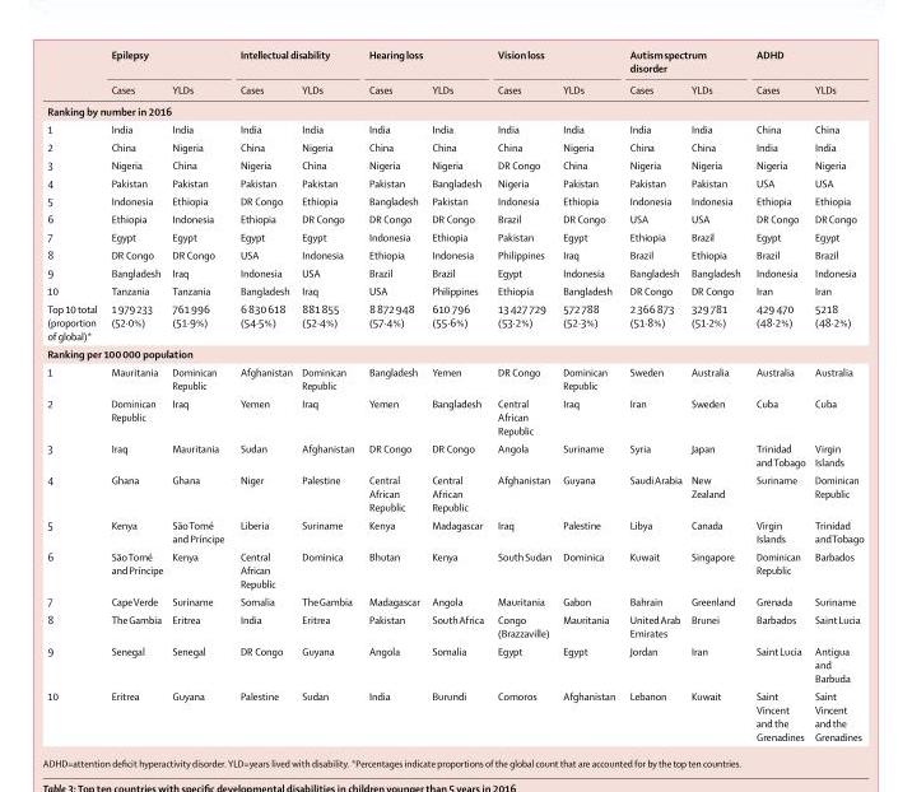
<table><thead><tr><td rowspan="2"></td><td colspan="2">Epilepsy</td><td colspan="2">Intellectual disability</td><td colspan="2">Hearing loss</td><td colspan="2">Vision loss</td><td colspan="2">Autism spectrum disorder</td><td colspan="2">ADHD</td></tr><tr><td>Cases</td><td>YLDs</td><td>Cases</td><td>YLDs</td><td>Cases</td><td>YLDs</td><td>Cases</td><td>YLDs</td><td>Cases</td><td>YLDs</td><td>Cases</td><td>YLDs</td></tr></thead><tbody><tr><td colspan="13">Ranking by number in 2016</td></tr><tr><td>1</td><td>India</td><td>India</td><td>India</td><td>India</td><td>India</td><td>India</td><td>India</td><td>India</td><td>India</td><td>India</td><td>China</td><td>China</td></tr><tr><td>2</td><td>China</td><td>Nigeria</td><td>China</td><td>Nigeria</td><td>China</td><td>China</td><td>China</td><td>Nigeria</td><td>China</td><td>China</td><td>India</td><td>India</td></tr><tr><td>3</td><td>Nigeria</td><td>China</td><td>Nigeria</td><td>China</td><td>Nigeria</td><td>Nigeria</td><td>DR Congo</td><td>China</td><td>Nigeria</td><td>Nigeria</td><td>Nigeria</td><td>Nigeria</td></tr><tr><td>4</td><td>Pakistan</td><td>Pakistan</td><td>Pakistan</td><td>Pakistan</td><td>Pakistan</td><td>Bangladesh</td><td>Nigeria</td><td>Pakistan</td><td>Pakistan</td><td>Pakistan</td><td>USA</td><td>USA</td></tr><tr><td>5</td><td>Indonesia</td><td>Ethiopia</td><td>DR Congo</td><td>Ethiopia</td><td>Bangladesh</td><td>Pakistan</td><td>Indonesia</td><td>Ethiopia</td><td>Indonesia</td><td>Indonesia</td><td>Ethiopia</td><td>Ethiopia</td></tr><tr><td>6</td><td>Ethiopia</td><td>Indonesia</td><td>Ethiopia</td><td>DR Congo</td><td>DR Congo</td><td>DR Congo</td><td>Brazil</td><td>DR Congo</td><td>USA</td><td>USA</td><td>DR Congo</td><td>DR Congo</td></tr><tr><td>7</td><td>Egypt</td><td>Egypt</td><td>Egypt</td><td>Egypt</td><td>Indonesia</td><td>Ethiopia</td><td>Pakistan</td><td>Egypt</td><td>Ethiopia</td><td>Brazil</td><td>Egypt</td><td>Egypt</td></tr><tr><td>8</td><td>DR Congo</td><td>DR Congo</td><td>USA</td><td>Indonesia</td><td>Ethiopia</td><td>Indonesia</td><td>Philippines</td><td>Iraq</td><td>Brazil</td><td>Ethiopia</td><td>Brazil</td><td>Brazil</td></tr><tr><td>9</td><td>Bangladesh</td><td>Iraq</td><td>Indonesia</td><td>USA</td><td>Brazil</td><td>Brazil</td><td>Egypt</td><td>Indonesia</td><td>Bangladesh</td><td>Bangladesh</td><td>Indonesia</td><td>Indonesia</td></tr><tr><td>10</td><td>Tanzania</td><td>Tanzania</td><td>Bangladesh</td><td>Iraq</td><td>USA</td><td>Philippines</td><td>Ethiopia</td><td>Bangladesh</td><td>DR Congo</td><td>DR Congo</td><td>Iran</td><td>Iran</td></tr><tr><td>Top 10 total (proportion of global)*</td><td>1 979 233 (52·0%)</td><td>761 996 (51·9%)</td><td>6 830 618 (54·5%)</td><td>881 855 (52·4%)</td><td>8 872 948 (57·4%)</td><td>610 796 (55·6%)</td><td>13 427 729 (53·2%)</td><td>572 788 (52·3%)</td><td>2 366 873 (51·8%)</td><td>329 781 (51·2%)</td><td>429 470 (48·2%)</td><td>5218 (48·2%)</td></tr><tr><td colspan="13">Ranking per 100 000 population</td></tr><tr><td>1</td><td>Mauritania</td><td>Dominican Republic</td><td>Afghanistan</td><td>Dominican Republic</td><td>Bangladesh</td><td>Yemen</td><td>DR Congo</td><td>Dominican Republic</td><td>Sweden</td><td>Australia</td><td>Australia</td><td>Australia</td></tr><tr><td>2</td><td>Dominican Republic</td><td>Iraq</td><td>Yemen</td><td>Iraq</td><td>Yemen</td><td>Bangladesh</td><td>Central African Republic</td><td>Iraq</td><td>Iran</td><td>Sweden</td><td>Cuba</td><td>Cuba</td></tr><tr><td>3</td><td>Iraq</td><td>Mauritania</td><td>Sudan</td><td>Afghanistan</td><td>DR Congo</td><td>DR Congo</td><td>Angola</td><td>Suriname</td><td>Syria</td><td>Japan</td><td>Trinidad and Tobago</td><td>Virgin Islands</td></tr><tr><td>4</td><td>Ghana</td><td>Ghana</td><td>Niger</td><td>Palestine</td><td>Central African Republic</td><td>Central African Republic</td><td>Afghanistan</td><td>Guyana</td><td>Saudi Arabia</td><td>New Zealand</td><td>Suriname</td><td>Dominican Republic</td></tr><tr><td>5</td><td>Kenya</td><td>São Tomé and Príncipe</td><td>Liberia</td><td>Suriname</td><td>Kenya</td><td>Madagascar</td><td>Iraq</td><td>Palestine</td><td>Libya</td><td>Canada</td><td>Virgin Islands</td><td>Trinidad and Tobago</td></tr><tr><td>6</td><td>São Tomé and Príncipe</td><td>Kenya</td><td>Central African Republic</td><td>Dominica</td><td>Bhutan</td><td>Kenya</td><td>South Sudan</td><td>Dominica</td><td>Kuwait</td><td>Singapore</td><td>Dominican Republic</td><td>Barbados</td></tr><tr><td>7</td><td>Cape Verde</td><td>Suriname</td><td>Somalia</td><td>The Gambia</td><td>Madagascar</td><td>Angola</td><td>Mauritania</td><td>Gabon</td><td>Bahrain</td><td>Greenland</td><td>Grenada</td><td>Suriname</td></tr><tr><td>8</td><td>The Gambia</td><td>Eritrea</td><td>India</td><td>Eritrea</td><td>Pakistan</td><td>South Africa</td><td>Congo (Brazzaville)</td><td>Mauritania</td><td>United Arab Emirates</td><td>Brunei</td><td>Barbados</td><td>Saint Lucia</td></tr><tr><td>9</td><td>Senegal</td><td>Senegal</td><td>DR Congo</td><td>Guyana</td><td>Angola</td><td>Somalia</td><td>Egypt</td><td>Egypt</td><td>Jordan</td><td>Iran</td><td>Saint Lucia</td><td>Antigua and Barbuda</td></tr><tr><td>10</td><td>Eritrea</td><td>Guyana</td><td>Palestine</td><td>Sudan</td><td>India</td><td>Burundi</td><td>Comoros</td><td>Afghanistan</td><td>Lebanon</td><td>Kuwait</td><td>Saint Vincent and the Grenadines</td><td>Saint Vincent and the Grenadines</td></tr></tbody></table>